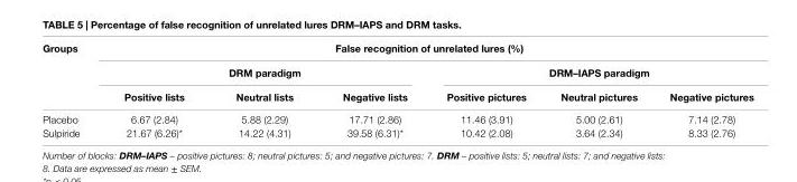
<table><tbody><tr><td rowspan="3">groups</td><td colspan="6">False recognition of unrelated lures (%)</td></tr><tr><td colspan="3">DrM paradigm</td><td colspan="3">DrM–iaPs paradigm</td></tr><tr><td>Positive lists</td><td>neutral lists</td><td>negative lists</td><td>Positive pictures</td><td>neutral pictures</td><td>negative pictures</td></tr><tr><td>Placebo</td><td>6.67 (2.84)</td><td>5.88 (2.29)</td><td>17.71 (2.86)</td><td>11.46 (3.91)</td><td>5.00 (2.61)</td><td>7.14 (2.78)</td></tr><tr><td>Sulpiride</td><td>21.67 (6.26)*</td><td>14.22 (4.31)</td><td>39.58 (6.31)*</td><td>10.42 (2.08)</td><td>3.64 (2.34)</td><td>8.33 (2.76)</td></tr></tbody></table>